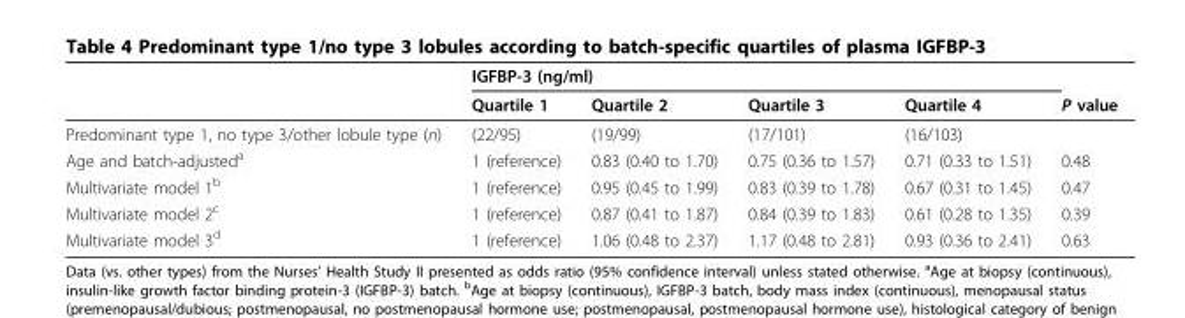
<table><thead><tr><td rowspan="2"></td><td colspan="4">IGFBP-3 (ng/ml)</td><td rowspan="2">P value</td></tr><tr><td>Quartile 1</td><td>Quartile 2</td><td>Quartile 3</td><td>Quartile 4</td></tr></thead><tbody><tr><td>Predominant type 1, no type 3/other lobule type (n)</td><td>(22/95)</td><td>(19/99)</td><td>(17/101)</td><td>(16/103)</td><td></td></tr><tr><td>Age and batch-adjusted<sup>a</sup></td><td>1 (reference)</td><td>0.83 (0.40 to 1.70)</td><td>0.75 (0.36 to 1.57)</td><td>0.71 (0.33 to 1.51)</td><td>0.48</td></tr><tr><td>Multivariate model 1<sup>b</sup></td><td>1 (reference)</td><td>0.95 (0.45 to 1.99)</td><td>0.83 (0.39 to 1.78)</td><td>0.67 (0.31 to 1.45)</td><td>0.47</td></tr><tr><td>Multivariate model 2<sup>c</sup></td><td>1 (reference)</td><td>0.87 (0.41 to 1.87)</td><td>0.84 (0.39 to 1.83)</td><td>0.61 (0.28 to 1.35)</td><td>0.39</td></tr><tr><td>Multivariate model 3<sup>d</sup></td><td>1 (reference)</td><td>1.06 (0.48 to 2.37)</td><td>1.17 (0.48 to 2.81)</td><td>0.93 (0.36 to 2.41)</td><td>0.63</td></tr></tbody></table>